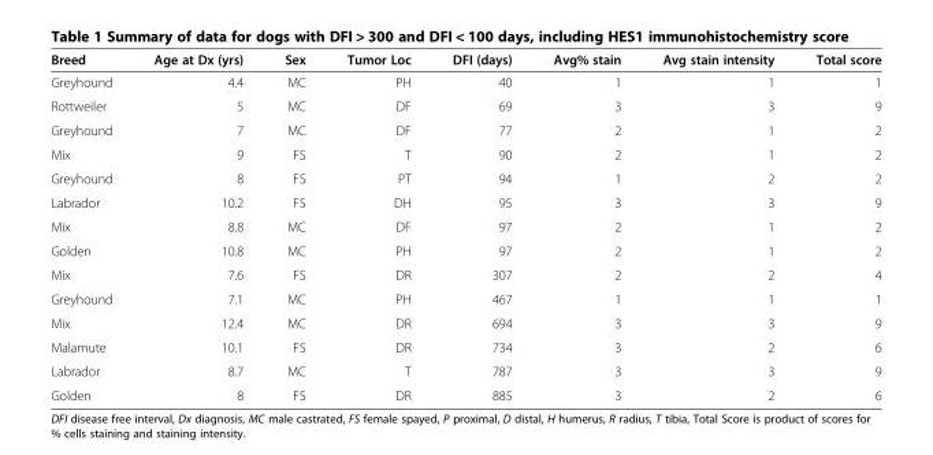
<table><thead><tr><td>Breed</td><td>Age at Dx (yrs)</td><td>Sex</td><td>Tumor Loc</td><td>DFI (days)</td><td>Avg% stain</td><td>Avg stain intensity</td><td>Total score</td></tr></thead><tbody><tr><td>Greyhound</td><td>4.4</td><td>MC</td><td>PH</td><td>40</td><td>1</td><td>1</td><td>1</td></tr><tr><td>Rottweiler</td><td>5</td><td>MC</td><td>DF</td><td>69</td><td>3</td><td>3</td><td>9</td></tr><tr><td>Greyhound</td><td>7</td><td>MC</td><td>DF</td><td>77</td><td>2</td><td>1</td><td>2</td></tr><tr><td>Mix</td><td>9</td><td>FS</td><td>T</td><td>90</td><td>2</td><td>1</td><td>2</td></tr><tr><td>Greyhound</td><td>8</td><td>FS</td><td>PT</td><td>94</td><td>1</td><td>2</td><td>2</td></tr><tr><td>Labrador</td><td>10.2</td><td>FS</td><td>DH</td><td>95</td><td>3</td><td>3</td><td>9</td></tr><tr><td>Mix</td><td>8.8</td><td>MC</td><td>DF</td><td>97</td><td>2</td><td>1</td><td>2</td></tr><tr><td>Golden</td><td>10.8</td><td>MC</td><td>PH</td><td>97</td><td>2</td><td>1</td><td>2</td></tr><tr><td>Mix</td><td>7.6</td><td>FS</td><td>DR</td><td>307</td><td>2</td><td>2</td><td>4</td></tr><tr><td>Greyhound</td><td>7.1</td><td>MC</td><td>PH</td><td>467</td><td>1</td><td>1</td><td>1</td></tr><tr><td>Mix</td><td>12.4</td><td>MC</td><td>DR</td><td>694</td><td>3</td><td>3</td><td>9</td></tr><tr><td>Malamute</td><td>10.1</td><td>FS</td><td>DR</td><td>734</td><td>3</td><td>2</td><td>6</td></tr><tr><td>Labrador</td><td>8.7</td><td>MC</td><td>T</td><td>787</td><td>3</td><td>3</td><td>9</td></tr><tr><td>Golden</td><td>8</td><td>FS</td><td>DR</td><td>885</td><td>3</td><td>2</td><td>6</td></tr></tbody></table>